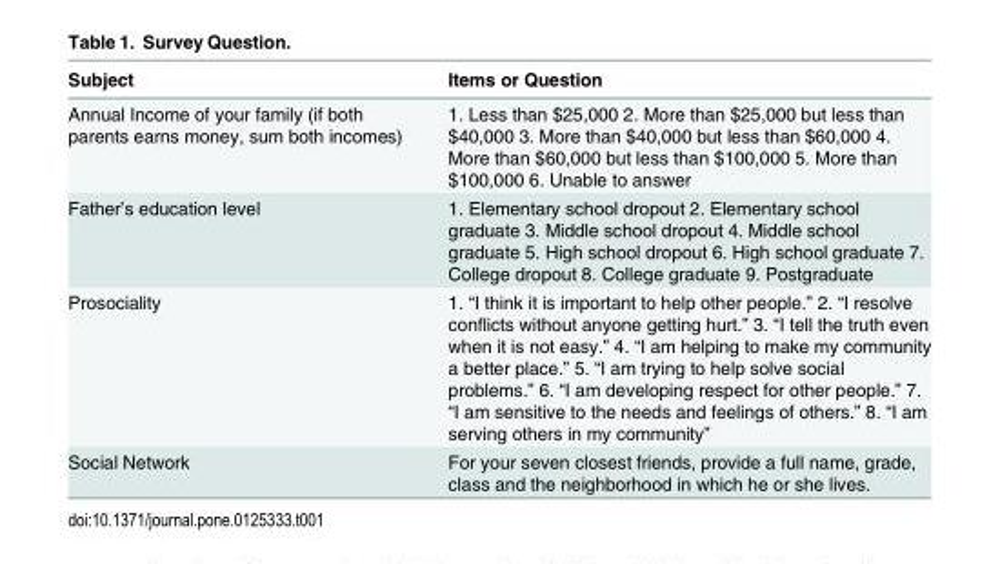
<table><thead><tr><td>Subject</td><td>Items or Question</td></tr></thead><tbody><tr><td>Annual Income of your family (if both parents earns money, sum both incomes)</td><td>1. Less than $25,000 2. More than $25,000 but less than $40,000 3. More than $40,000 but less than $60,000 4. More than $60,000 but less than $100,000 5. More than $100,000 6. Unable to answer</td></tr><tr><td>Father’s education level</td><td>1. Elementary school dropout 2. Elementary school graduate 3. Middle school dropout 4. Middle school graduate 5. High school dropout 6. High school graduate 7. College dropout 8. College graduate 9. Postgraduate</td></tr><tr><td>Prosociality</td><td>1. “I think it is important to help other people.” 2. “I resolve conflicts without anyone getting hurt.” 3. “I tell the truth even when it is not easy.” 4. “I am helping to make my community a better place.” 5. “I am trying to help solve social problems.” 6. “I am developing respect for other people.” 7. “I am sensitive to the needs and feelings of others.” 8. “I am serving others in my community”</td></tr><tr><td>Social Network</td><td>For your seven closest friends, provide a full name, grade, class and the neighborhood in which he or she lives.</td></tr></tbody></table>